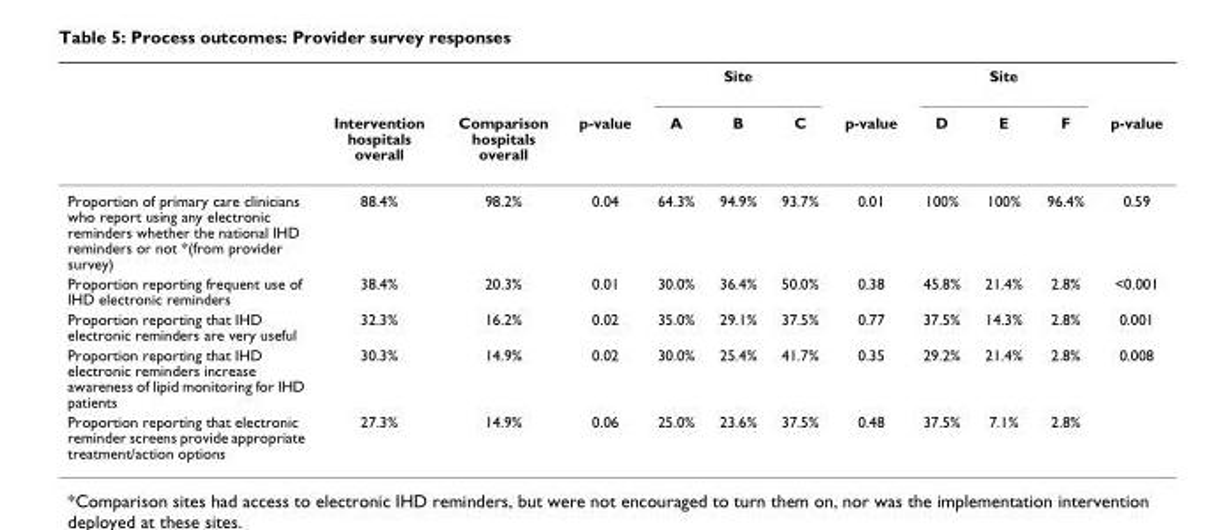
<table><thead><tr><td rowspan="2"></td><td rowspan="2">Intervention hospitals overall</td><td rowspan="2">Comparison hospitals overall</td><td rowspan="2">p-value</td><td colspan="3">Site</td><td rowspan="2">p-value</td><td colspan="3">Site</td><td rowspan="2">p-value</td></tr><tr><td>A</td><td>B</td><td>C</td><td>D</td><td>E</td><td>F</td></tr></thead><tbody><tr><td>Proportion of primary care clinicians who report using any electronic reminders whether the national IHD reminders or not *(from provider survey)</td><td>88.4%</td><td>98.2%</td><td>0.04</td><td>64.3%</td><td>94.9%</td><td>93.7%</td><td>0.01</td><td>100%</td><td>100%</td><td>96.4%</td><td>0.59</td></tr><tr><td>Proportion reporting frequent use of IHD electronic reminders</td><td>38.4%</td><td>20.3%</td><td>0.01</td><td>30.0%</td><td>36.4%</td><td>50.0%</td><td>0.38</td><td>45.8%</td><td>21.4%</td><td>2.8%</td><td>&lt;0.001</td></tr><tr><td>Proportion reporting that IHD electronic reminders are very useful</td><td>32.3%</td><td>16.2%</td><td>0.02</td><td>35.0%</td><td>29.1%</td><td>37.5%</td><td>0.77</td><td>37.5%</td><td>14.3%</td><td>2.8%</td><td>0.001</td></tr><tr><td>Proportion reporting that IHD electronic reminders increase awareness of lipid monitoring for IHD patients</td><td>30.3%</td><td>14.9%</td><td>0.02</td><td>30.0%</td><td>25.4%</td><td>41.7%</td><td>0.35</td><td>29.2%</td><td>21.4%</td><td>2.8%</td><td>0.008</td></tr><tr><td>Proportion reporting that electronic reminder screens provide appropriate treatment/action options</td><td>27.3%</td><td>14.9%</td><td>0.06</td><td>25.0%</td><td>23.6%</td><td>37.5%</td><td>0.48</td><td>37.5%</td><td>7.1%</td><td>2.8%</td><td></td></tr></tbody></table>